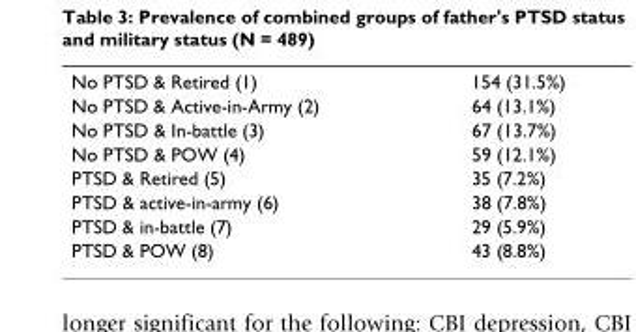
<table><tbody><tr><td>No PTSD &amp; Retired (1)</td><td>154 (31.5%)</td></tr><tr><td>No PTSD &amp; Active-in-Army (2)</td><td>64 (13.1%)</td></tr><tr><td>No PTSD &amp; In-battle (3)</td><td>67 (13.7%)</td></tr><tr><td>No PTSD &amp; POW (4)</td><td>59 (12.1%)</td></tr><tr><td>PTSD &amp; Retired (5)</td><td>35 (7.2%)</td></tr><tr><td>PTSD &amp; active-in-army (6)</td><td>38 (7.8%)</td></tr><tr><td>PTSD &amp; in-battle (7)</td><td>29 (5.9%)</td></tr><tr><td>PTSD &amp; POW (8)</td><td>43 (8.8%)</td></tr></tbody></table>